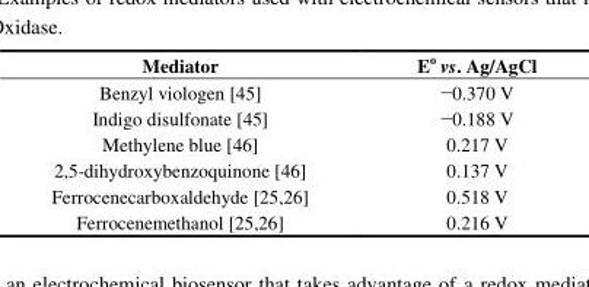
<table><thead><tr><td>Mediator</td><td>E<sup>o</sup> vs. Ag/AgCl</td></tr></thead><tbody><tr><td>Benzyl viologen [45]</td><td>−0.370 V</td></tr><tr><td>Indigo disulfonate [45]</td><td>−0.188 V</td></tr><tr><td>Methylene blue [46]</td><td>0.217 V</td></tr><tr><td>2,5-dihydroxybenzoquinone [46]</td><td>0.137 V</td></tr><tr><td>Ferrocenecarboxaldehyde [25,26]</td><td>0.518 V</td></tr><tr><td>Ferrocenemethanol [25,26]</td><td>0.216 V</td></tr></tbody></table>